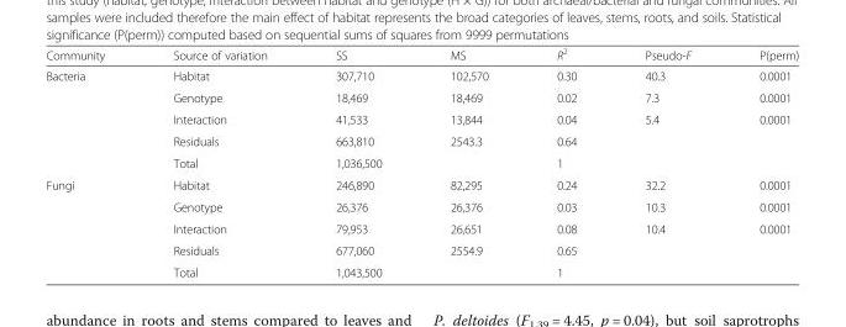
<table><thead><tr><td>Community</td><td>Source of variation</td><td>SS</td><td>MS</td><td>R<sup>2</sup></td><td>Pseudo-F</td><td>P(perm)</td></tr></thead><tbody><tr><td rowspan="5">Bacteria</td><td>Habitat</td><td>307,710</td><td>102,570</td><td>0.30</td><td>40.3</td><td>0.0001</td></tr><tr><td>Genotype</td><td>18,469</td><td>18,469</td><td>0.02</td><td>7.3</td><td>0.0001</td></tr><tr><td>Interaction</td><td>41,533</td><td>13,844</td><td>0.04</td><td>5.4</td><td>0.0001</td></tr><tr><td>Residuals</td><td>663,810</td><td>2543.3</td><td>0.64</td><td></td><td></td></tr><tr><td>Total</td><td>1,036,500</td><td></td><td>1</td><td></td><td></td></tr><tr><td rowspan="5">Fungi</td><td>Habitat</td><td>246,890</td><td>82,295</td><td>0.24</td><td>32.2</td><td>0.0001</td></tr><tr><td>Genotype</td><td>26,376</td><td>26,376</td><td>0.03</td><td>10.3</td><td>0.0001</td></tr><tr><td>Interaction</td><td>79,953</td><td>26,651</td><td>0.08</td><td>10.4</td><td>0.0001</td></tr><tr><td>Residuals</td><td>677,060</td><td>2554.9</td><td>0.65</td><td></td><td></td></tr><tr><td>Total</td><td>1,043,500</td><td></td><td>1</td><td></td><td></td></tr></tbody></table>